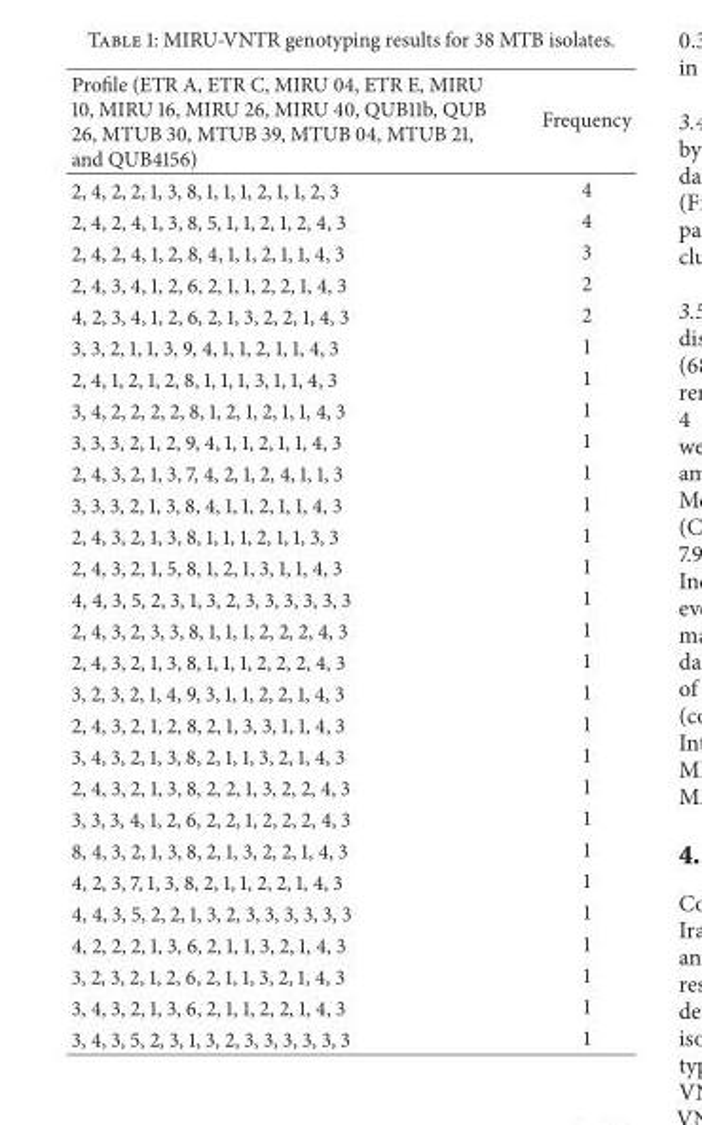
<table><thead><tr><td>Profile (ETR A, ETR C, MIRU 04, ETR E, MIRU 10, MIRU 16, MIRU 26, MIRU 40, QUB11b, QUB 26, MTUB 30, MTUB 39, MTUB 04, MTUB 21, and QUB4156)</td><td>Frequency</td></tr></thead><tbody><tr><td>2, 4, 2, 2, 1, 3, 8, 1, 1, 1, 2, 1, 1, 2, 3</td><td>4</td></tr><tr><td>2, 4, 2, 4, 1, 3, 8, 5, 1, 1, 2, 1, 2, 4, 3</td><td>4</td></tr><tr><td>2, 4, 2, 4, 1, 2, 8, 4, 1, 1, 2, 1, 1, 4, 3</td><td>3</td></tr><tr><td>2, 4, 3, 4, 1, 2, 6, 2, 1, 1, 2, 2, 1, 4, 3</td><td>2</td></tr><tr><td>4, 2, 3, 4, 1, 2, 6, 2, 1, 3, 2, 2, 1, 4, 3</td><td>2</td></tr><tr><td>3, 3, 2, 1, 1, 3, 9, 4, 1, 1, 2, 1, 1, 4, 3</td><td>1</td></tr><tr><td>2, 4, 1, 2, 1, 2, 8, 1, 1, 1, 3, 1, 1, 4, 3</td><td>1</td></tr><tr><td>3, 4, 2, 2, 2, 2, 8, 1, 2, 1, 2, 1, 1, 4, 3</td><td>1</td></tr><tr><td>3, 3, 3, 2, 1, 2, 9, 4, 1, 1, 2, 1, 1, 4, 3</td><td>1</td></tr><tr><td>2, 4, 3, 2, 1, 3, 7, 4, 2, 1, 2, 4, 1, 1, 3</td><td>1</td></tr><tr><td>3, 3, 3, 2, 1, 3, 8, 4, 1, 1, 2, 1, 1, 4, 3</td><td>1</td></tr><tr><td>2, 4, 3, 2, 1, 3, 8, 1, 1, 1, 2, 1, 1, 3, 3</td><td>1</td></tr><tr><td>2, 4, 3, 2, 1, 5, 8, 1, 2, 1, 3, 1, 1, 4, 3</td><td>1</td></tr><tr><td>4, 4, 3, 5, 2, 3, 1, 3, 2, 3, 3, 3, 3, 3, 3</td><td>1</td></tr><tr><td>2, 4, 3, 2, 3, 3, 8, 1, 1, 1, 2, 2, 2, 4, 3</td><td>1</td></tr><tr><td>2, 4, 3, 2, 1, 3, 8, 1, 1, 1, 2, 2, 2, 4, 3</td><td>1</td></tr><tr><td>3, 2, 3, 2, 1, 4, 9, 3, 1, 1, 2, 2, 1, 4, 3</td><td>1</td></tr><tr><td>2, 4, 3, 2, 1, 2, 8, 2, 1, 3, 3, 1, 1, 4, 3</td><td>1</td></tr><tr><td>3, 4, 3, 2, 1, 3, 8, 2, 1, 1, 3, 2, 1, 4, 3</td><td>1</td></tr><tr><td>2, 4, 3, 2, 1, 3, 8, 2, 2, 1, 3, 2, 2, 4, 3</td><td>1</td></tr><tr><td>3, 3, 3, 4, 1, 2, 6, 2, 2, 1, 2, 2, 2, 4, 3</td><td>1</td></tr><tr><td>8, 4, 3, 2, 1, 3, 8, 2, 1, 3, 2, 2, 1, 4, 3</td><td>1</td></tr><tr><td>4, 2, 3, 7, 1, 3, 8, 2, 1, 1, 2, 2, 1, 4, 3</td><td>1</td></tr><tr><td>4, 4, 3, 5, 2, 2, 1, 3, 2, 3, 3, 3, 3, 3, 3</td><td>1</td></tr><tr><td>4, 2, 2, 2, 1, 3, 6, 2, 1, 1, 3, 2, 1, 4, 3</td><td>1</td></tr><tr><td>3, 2, 3, 2, 1, 2, 6, 2, 1, 1, 3, 2, 1, 4, 3</td><td>1</td></tr><tr><td>3, 4, 3, 2, 1, 3, 6, 2, 1, 1, 2, 2, 1, 4, 3</td><td>1</td></tr><tr><td>3, 4, 3, 5, 2, 3, 1, 3, 2, 3, 3, 3, 3, 3, 3</td><td>1</td></tr></tbody></table>